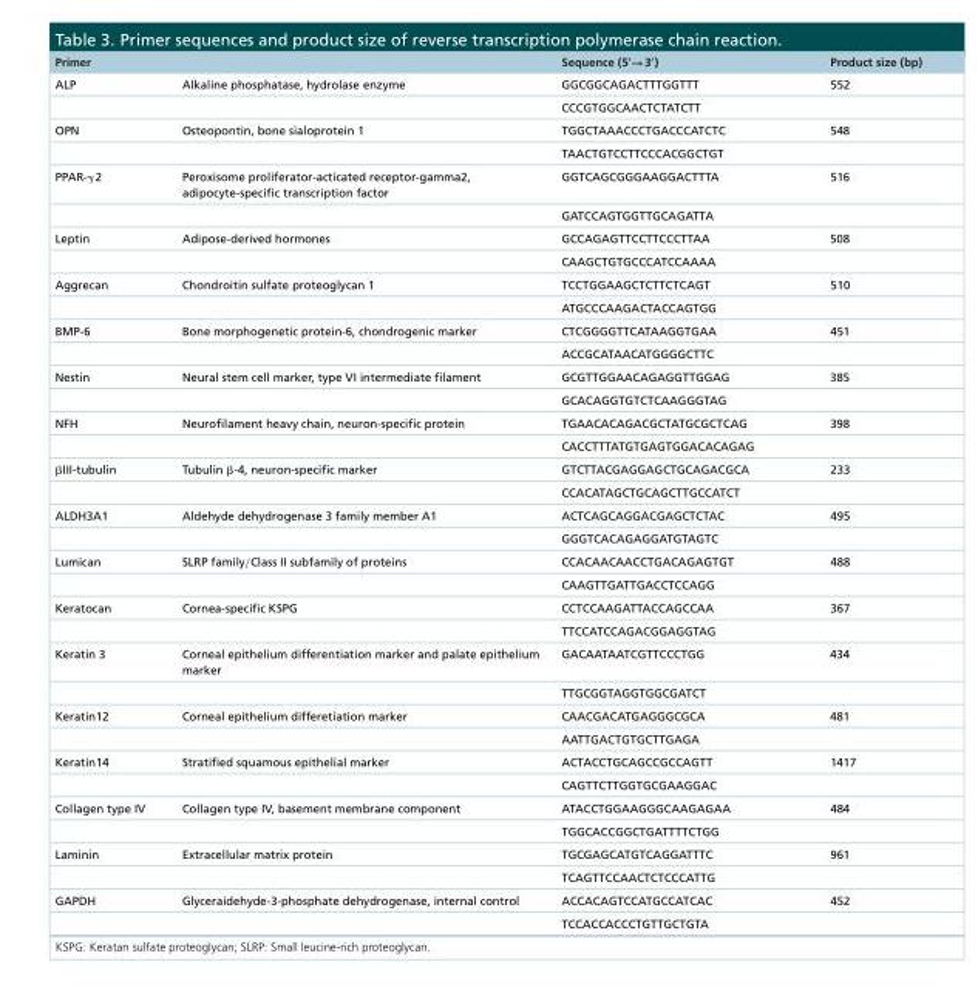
<table><thead><tr><td>Primer</td><td></td><td>Sequence (5′→3′)</td><td>Product size (bp)</td></tr></thead><tbody><tr><td rowspan="2">ALP</td><td>Alkaline phosphatase, hydrolase enzyme</td><td>GGCGGCAGACTTTGGTTT</td><td>552</td></tr><tr><td></td><td>CCCGTGGCAACTCTATCTT</td><td></td></tr><tr><td rowspan="2">OPN</td><td>Osteopontin, bone sialoprotein 1</td><td>TGGCTAAACCCTGACCCATCTC</td><td>548</td></tr><tr><td></td><td>TAACTGTCCTTCCCACGGCTGT</td><td></td></tr><tr><td rowspan="2">PPAR-γ2</td><td>Peroxisome proliferator-acticated receptor-gamma2, adipocyte-specific transcription factor</td><td>GGTCAGCGGGAAGGACTTTA</td><td>516</td></tr><tr><td></td><td>GATCCAGTGGTTGCAGATTA</td><td></td></tr><tr><td rowspan="2">Leptin</td><td>Adipose-derived hormones</td><td>GCCAGAGTTCCTTCCCTTAA</td><td>508</td></tr><tr><td></td><td>CAAGCTGTGCCCATCCAAAA</td><td></td></tr><tr><td rowspan="2">Aggrecan</td><td>Chondroitin sulfate proteoglycan 1</td><td>TCCTGGAAGCTCTTCTCAGT</td><td>510</td></tr><tr><td></td><td>ATGCCCAAGACTACCAGTGG</td><td></td></tr><tr><td rowspan="2">BMP-6</td><td>Bone morphogenetic protein-6, chondrogenic marker</td><td>CTCGGGGTTCATAAGGTGAA</td><td>451</td></tr><tr><td></td><td>ACCGCATAACATGGGGCTTC</td><td></td></tr><tr><td rowspan="2">Nestin</td><td>Neural stem cell marker, type VI intermediate filament</td><td>GCGTTGGAACAGAGGTTGGAG</td><td>385</td></tr><tr><td></td><td>GCACAGGTGTCTCAAGGGTAG</td><td></td></tr><tr><td rowspan="2">NFH</td><td>Neurofilament heavy chain, neuron-specific protein</td><td>TGAACACAGACGCTATGCGCTCAG</td><td>398</td></tr><tr><td></td><td>CACCTTTATGTGAGTGGACACAGAG</td><td></td></tr><tr><td rowspan="2">βIII-tubulin</td><td>Tubulin β-4, neuron-specific marker</td><td>GTCTTACGAGGAGCTGCAGACGCA</td><td>233</td></tr><tr><td></td><td>CCACATAGCTGCAGCTTGCCATCT</td><td></td></tr><tr><td rowspan="2">ALDH3A1</td><td>Aldehyde dehydrogenase 3 family member A1</td><td>ACTCAGCAGGACGAGCTCTAC</td><td>495</td></tr><tr><td></td><td>GGGTCACAGAGGATGTAGTC</td><td></td></tr><tr><td rowspan="2">Lumican</td><td>SLRP family/Class II subfamily of proteins</td><td>CCACAACAACCTGACAGAGTGT</td><td>488</td></tr><tr><td></td><td>CAAGTTGATTGACCTCCAGG</td><td></td></tr><tr><td rowspan="2">Keratocan</td><td>Cornea-specific KSPG</td><td>CCTCCAAGATTACCAGCCAA</td><td>367</td></tr><tr><td></td><td>TTCCATCCAGACGGAGGTAG</td><td></td></tr><tr><td rowspan="2">Keratin 3</td><td>Corneal epithelium differentiation marker and palate epithelium marker</td><td>GACAATAATCGTTCCCTGG</td><td>434</td></tr><tr><td></td><td>TTGCGGTAGGTGGCGATCT</td><td></td></tr><tr><td rowspan="2">Keratin12</td><td>Corneal epithelium differetiation marker</td><td>CAACGACATGAGGGCGCA</td><td>481</td></tr><tr><td></td><td>AATTGACTGTGCTTGAGA</td><td></td></tr><tr><td rowspan="2">Keratin14</td><td>Stratified squamous epithelial marker</td><td>ACTACCTGCAGCCGCCAGTT</td><td>1417</td></tr><tr><td></td><td>CAGTTCTTGGTGCGAAGGAC</td><td></td></tr><tr><td rowspan="2">Collagen type IV</td><td>Collagen type IV, basement membrane component</td><td>ATACCTGGAAGGGCAAGAGAA</td><td>484</td></tr><tr><td></td><td>TGGCACCGGCTGATTTTCTGG</td><td></td></tr><tr><td rowspan="2">Laminin</td><td>Extracellular matrix protein</td><td>TGCGAGCATGTCAGGATTTC</td><td>961</td></tr><tr><td></td><td>TCAGTTCCAACTCTCCCATTG</td><td></td></tr><tr><td rowspan="2">GAPDH</td><td>Glyceraidehyde-3-phosphate dehydrogenase, internal control</td><td>ACCACAGTCCATGCCATCAC</td><td>452</td></tr><tr><td></td><td>TCCACCACCCTGTTGCTGTA</td><td></td></tr></tbody></table>